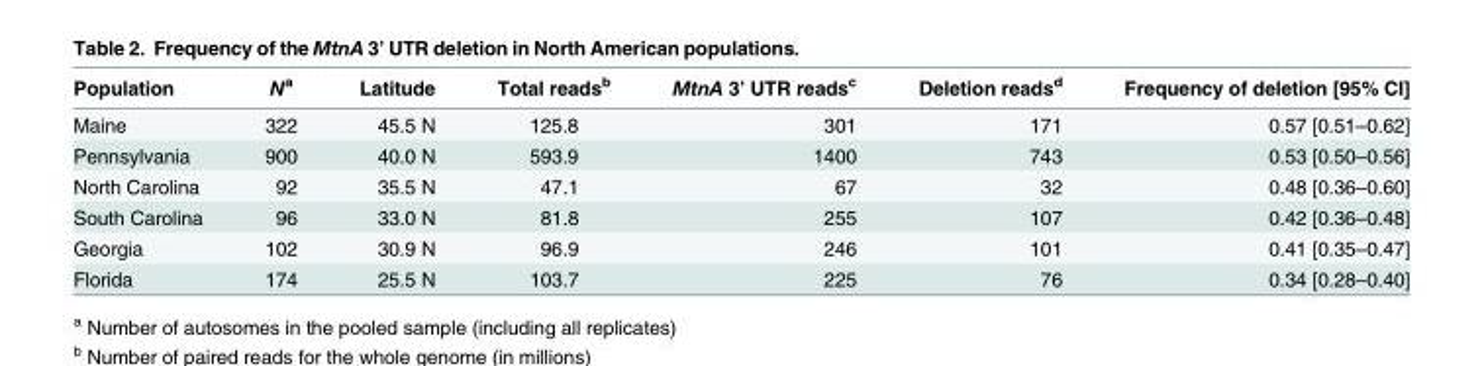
<table><thead><tr><td>Population</td><td>N<sup>a</sup></td><td>Latitude</td><td>Total reads<sup>b</sup></td><td>MtnA 3’ UTR reads<sup>c</sup></td><td>Deletion reads<sup>d</sup></td><td>Frequency of deletion [95% CI]</td></tr></thead><tbody><tr><td>Maine</td><td>322</td><td>45.5 N</td><td>125.8</td><td>301</td><td>171</td><td>0.57 [0.51–0.62]</td></tr><tr><td>Pennsylvania</td><td>900</td><td>40.0 N</td><td>593.9</td><td>1400</td><td>743</td><td>0.53 [0.50–0.56]</td></tr><tr><td>North Carolina</td><td>92</td><td>35.5 N</td><td>47.1</td><td>67</td><td>32</td><td>0.48 [0.36–0.60]</td></tr><tr><td>South Carolina</td><td>96</td><td>33.0 N</td><td>81.8</td><td>255</td><td>107</td><td>0.42 [0.36–0.48]</td></tr><tr><td>Georgia</td><td>102</td><td>30.9 N</td><td>96.9</td><td>246</td><td>101</td><td>0.41 [0.35–0.47]</td></tr><tr><td>Florida</td><td>174</td><td>25.5 N</td><td>103.7</td><td>225</td><td>76</td><td>0.34 [0.28–0.40]</td></tr></tbody></table>